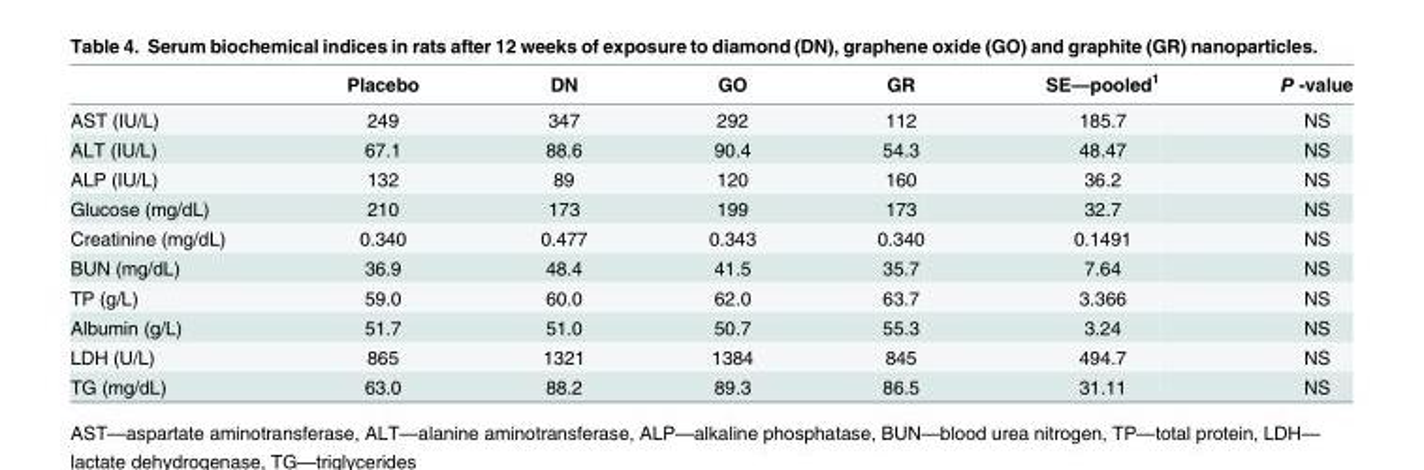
<table><thead><tr><td></td><td>Placebo</td><td>DN</td><td>GO</td><td>GR</td><td>SE—pooled<sup>1</sup></td><td>P -value</td></tr></thead><tbody><tr><td>AST (IU/L)</td><td>249</td><td>347</td><td>292</td><td>112</td><td>185.7</td><td>NS</td></tr><tr><td>ALT (IU/L)</td><td>67.1</td><td>88.6</td><td>90.4</td><td>54.3</td><td>48.47</td><td>NS</td></tr><tr><td>ALP (IU/L)</td><td>132</td><td>89</td><td>120</td><td>160</td><td>36.2</td><td>NS</td></tr><tr><td>Glucose (mg/dL)</td><td>210</td><td>173</td><td>199</td><td>173</td><td>32.7</td><td>NS</td></tr><tr><td>Creatinine (mg/dL)</td><td>0.340</td><td>0.477</td><td>0.343</td><td>0.340</td><td>0.1491</td><td>NS</td></tr><tr><td>BUN (mg/dL)</td><td>36.9</td><td>48.4</td><td>41.5</td><td>35.7</td><td>7.64</td><td>NS</td></tr><tr><td>TP (g/L)</td><td>59.0</td><td>60.0</td><td>62.0</td><td>63.7</td><td>3.366</td><td>NS</td></tr><tr><td>Albumin (g/L)</td><td>51.7</td><td>51.0</td><td>50.7</td><td>55.3</td><td>3.24</td><td>NS</td></tr><tr><td>LDH (U/L)</td><td>865</td><td>1321</td><td>1384</td><td>845</td><td>494.7</td><td>NS</td></tr><tr><td>TG (mg/dL)</td><td>63.0</td><td>88.2</td><td>89.3</td><td>86.5</td><td>31.11</td><td>NS</td></tr></tbody></table>